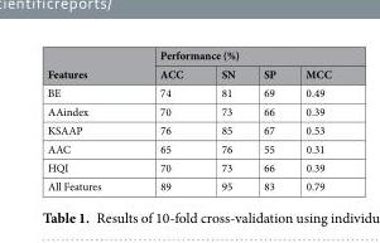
<table><thead><tr><td rowspan="2">Features</td><td colspan="4">Performance (%)</td></tr><tr><td>ACC</td><td>SN</td><td>SP</td><td>MCC</td></tr></thead><tbody><tr><td>BE</td><td>74</td><td>81</td><td>69</td><td>0.49</td></tr><tr><td>AAindex</td><td>70</td><td>73</td><td>66</td><td>0.39</td></tr><tr><td>KSAAP</td><td>76</td><td>85</td><td>67</td><td>0.53</td></tr><tr><td>AAC</td><td>65</td><td>76</td><td>55</td><td>0.31</td></tr><tr><td>HQI</td><td>70</td><td>73</td><td>66</td><td>0.39</td></tr><tr><td>All Features</td><td>89</td><td>95</td><td>83</td><td>0.79</td></tr></tbody></table>